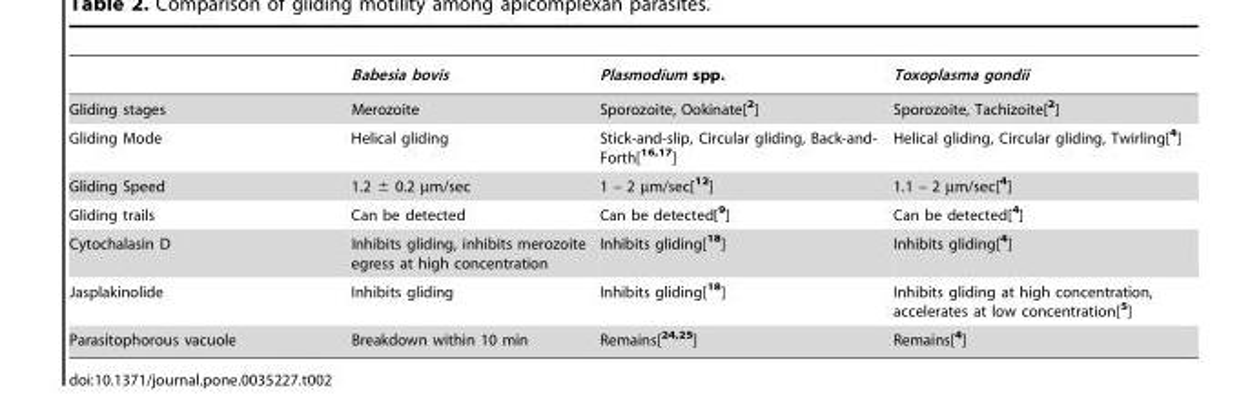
<table><thead><tr><td></td><td>Babesia bovis</td><td>Plasmodium spp.</td><td>Toxoplasma gondii</td></tr></thead><tbody><tr><td>Gliding stages</td><td>Merozoite</td><td>Sporozoite, Ookinate[<sup>2</sup>]</td><td>Sporozoite, Tachizoite[<sup>2</sup>]</td></tr><tr><td>Gliding Mode</td><td>Helical gliding</td><td>Stick-and-slip, Circular gliding, Back-and- Forth[16,17]</td><td>Helical gliding, Circular gliding, Twirling[<sup>4</sup>]</td></tr><tr><td>Gliding Speed</td><td>1.2 ± 0.2 µm/sec</td><td>1 – 2 µm/sec[<sup>12</sup>]</td><td>1.1 – 2 µm/sec[<sup>4</sup>]</td></tr><tr><td>Gliding trails</td><td>Can be detected</td><td>Can be detected[<sup>9</sup>]</td><td>Can be detected[<sup>4</sup>]</td></tr><tr><td>Cytochalasin D</td><td>Inhibits gliding, inhibits merozoite egress at high concentration</td><td>Inhibits gliding[<sup>18</sup>]</td><td>Inhibits gliding[<sup>4</sup>]</td></tr><tr><td>Jasplakinolide</td><td>Inhibits gliding</td><td>Inhibits gliding[<sup>18</sup>]</td><td>Inhibits gliding at high concentration, accelerates at low concentration[<sup>5</sup>]</td></tr><tr><td>Parasitophorous vacuole</td><td>Breakdown within 10 min</td><td>Remains[24,25]</td><td>Remains[<sup>4</sup>]</td></tr></tbody></table>